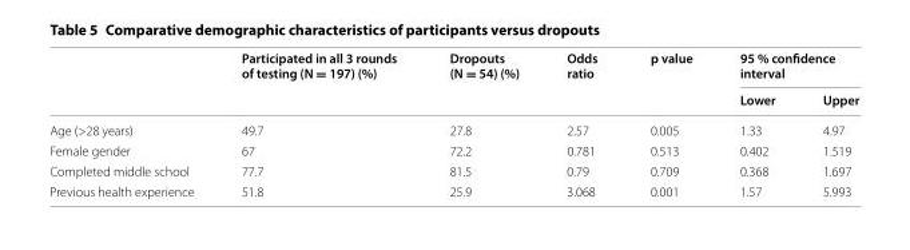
<table><thead><tr><td rowspan="2"></td><td rowspan="2">Participated in all 3 rounds of testing (N = 197) (%)</td><td rowspan="2">Dropouts (N = 54) (%)</td><td rowspan="2">Odds ratio</td><td rowspan="2">p value</td><td colspan="2">95 % confidence interval</td></tr><tr><td>Lower</td><td>Upper</td></tr></thead><tbody><tr><td>Age (&gt;28 years)</td><td>49.7</td><td>27.8</td><td>2.57</td><td>0.005</td><td>1.33</td><td>4.97</td></tr><tr><td>Female gender</td><td>67</td><td>72.2</td><td>0.781</td><td>0.513</td><td>0.402</td><td>1.519</td></tr><tr><td>Completed middle school</td><td>77.7</td><td>81.5</td><td>0.79</td><td>0.709</td><td>0.368</td><td>1.697</td></tr><tr><td>Previous health experience</td><td>51.8</td><td>25.9</td><td>3.068</td><td>0.001</td><td>1.57</td><td>5.993</td></tr></tbody></table>